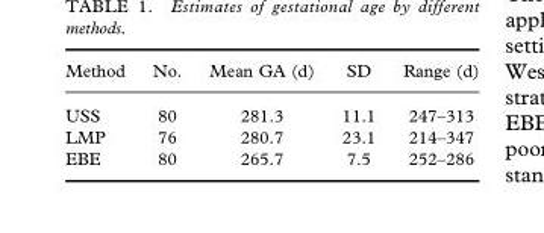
<table><thead><tr><td>Method</td><td>No.</td><td>Mean GA (d)</td><td>SD</td><td>Range (d)</td></tr></thead><tbody><tr><td>USS</td><td>80</td><td>281.3</td><td>11.1</td><td>247–313</td></tr><tr><td>LMP</td><td>76</td><td>280.7</td><td>23.1</td><td>214–347</td></tr><tr><td>EBE</td><td>80</td><td>265.7</td><td>7.5</td><td>252–286</td></tr></tbody></table>